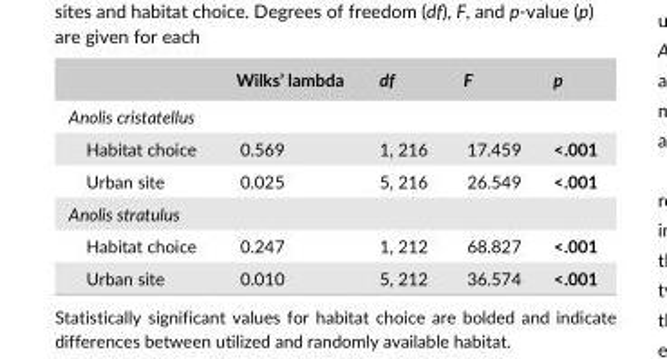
<table><thead><tr><td></td><td>Wilks’ lambda</td><td>df</td><td>F</td><td>p</td></tr></thead><tbody><tr><td colspan="5">Anolis cristatellus</td></tr><tr><td>Habitat choice</td><td>0.569</td><td>1, 216</td><td>17.459</td><td>&lt;.001</td></tr><tr><td>Urban site</td><td>0.025</td><td>5, 216</td><td>26.549</td><td>&lt;.001</td></tr><tr><td colspan="5">Anolis stratulus</td></tr><tr><td>Habitat choice</td><td>0.247</td><td>1, 212</td><td>68.827</td><td>&lt;.001</td></tr><tr><td>Urban site</td><td>0.010</td><td>5, 212</td><td>36.574</td><td>&lt;.001</td></tr></tbody></table>